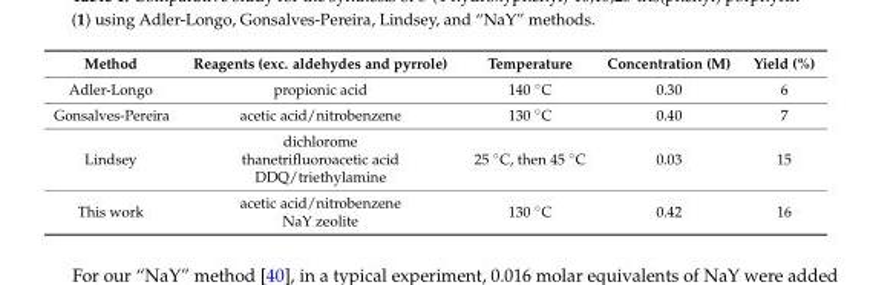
<table><thead><tr><td>Method</td><td>Reagents (exc. aldehydes and pyrrole)</td><td>Temperature</td><td>Concentration (M)</td><td>Yield (%)</td></tr></thead><tbody><tr><td>Adler-Longo</td><td>propionic acid</td><td>140 ◦C</td><td>0.30</td><td>6</td></tr><tr><td>Gonsalves-Pereira</td><td>acetic acid/nitrobenzene</td><td>130 ◦C</td><td>0.40</td><td>7</td></tr><tr><td>Lindsey</td><td>dichlorome thanetrifluoroacetic acid DDQ/triethylamine</td><td>25 ◦C, then 45 ◦C</td><td>0.03</td><td>15</td></tr><tr><td>This work</td><td>acetic acid/nitrobenzene NaY zeolite</td><td>130 ◦C</td><td>0.42</td><td>16</td></tr></tbody></table>